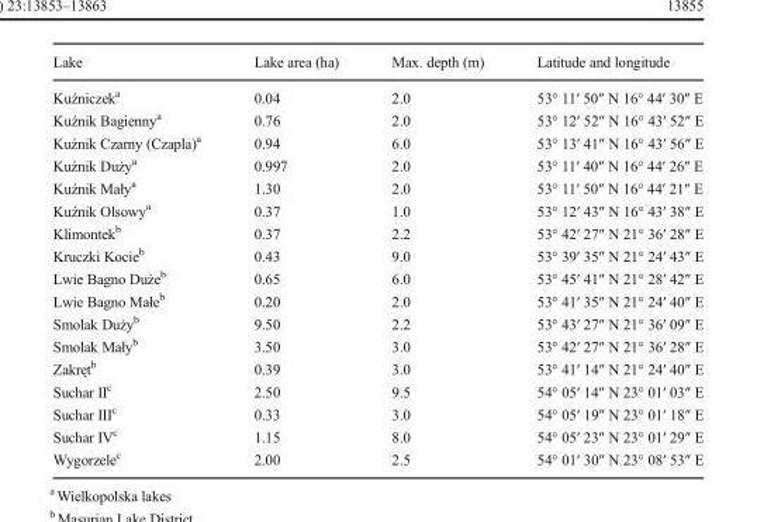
<table><thead><tr><td>Lake</td><td>Lake area (ha)</td><td>Max. depth (m)</td><td>Latitude and longitude</td></tr></thead><tbody><tr><td>Kuźniczek<sup>a</sup></td><td>0.04</td><td>2.0</td><td>53° 11′ 50″ N 16° 44′ 30″ E</td></tr><tr><td>Kuźnik Bagienny<sup>a</sup></td><td>0.76</td><td>2.0</td><td>53° 12′ 52″ N 16° 43′ 52″ E</td></tr><tr><td>Kuźnik Czarny (Czapla)<sup>a</sup></td><td>0.94</td><td>6.0</td><td>53° 13′ 41″ N 16° 43′ 56″ E</td></tr><tr><td>Kuźnik Duży<sup>a</sup></td><td>0.997</td><td>2.0</td><td>53° 11′ 40″ N 16° 44′ 26″ E</td></tr><tr><td>Kuźnik Mały<sup>a</sup></td><td>1.30</td><td>2.0</td><td>53° 11′ 50″ N 16° 44′ 21″ E</td></tr><tr><td>Kuźnik Olsowy<sup>a</sup></td><td>0.37</td><td>1.0</td><td>53° 12′ 43″ N 16° 43′ 38″ E</td></tr><tr><td>Klimontek<sup>b</sup></td><td>0.37</td><td>2.2</td><td>53° 42′ 27″ N 21° 36′ 28″ E</td></tr><tr><td>Kruczki Kocie<sup>b</sup></td><td>0.43</td><td>9.0</td><td>53° 39′ 35″ N 21° 24′ 43″ E</td></tr><tr><td>Lwie Bagno Duże<sup>b</sup></td><td>0.65</td><td>6.0</td><td>53° 45′ 41″ N 21° 28′ 42″ E</td></tr><tr><td>Lwie Bagno Małe<sup>b</sup></td><td>0.20</td><td>2.0</td><td>53° 41′ 35″ N 21° 24′ 40″ E</td></tr><tr><td>Smolak Duży<sup>b</sup></td><td>9.50</td><td>2.2</td><td>53° 43′ 27″ N 21° 36′ 09″ E</td></tr><tr><td>Smolak Mały<sup>b</sup></td><td>3.50</td><td>3.0</td><td>53° 42′ 27″ N 21° 36′ 28″ E</td></tr><tr><td>Zakręt<sup>b</sup></td><td>0.39</td><td>3.0</td><td>53° 41′ 14″ N 21° 24′ 40″ E</td></tr><tr><td>Suchar II<sup>c</sup></td><td>2.50</td><td>9.5</td><td>54° 05′ 14″ N 23° 01′ 03″ E</td></tr><tr><td>Suchar III<sup>c</sup></td><td>0.33</td><td>3.0</td><td>54° 05′ 19″ N 23° 01′ 18″ E</td></tr><tr><td>Suchar IV<sup>c</sup></td><td>1.15</td><td>8.0</td><td>54° 05′ 23″ N 23° 01′ 29″ E</td></tr><tr><td>Wygorzele<sup>c</sup></td><td>2.00</td><td>2.5</td><td>54° 01′ 30″ N 23° 08′ 53″ E</td></tr></tbody></table>